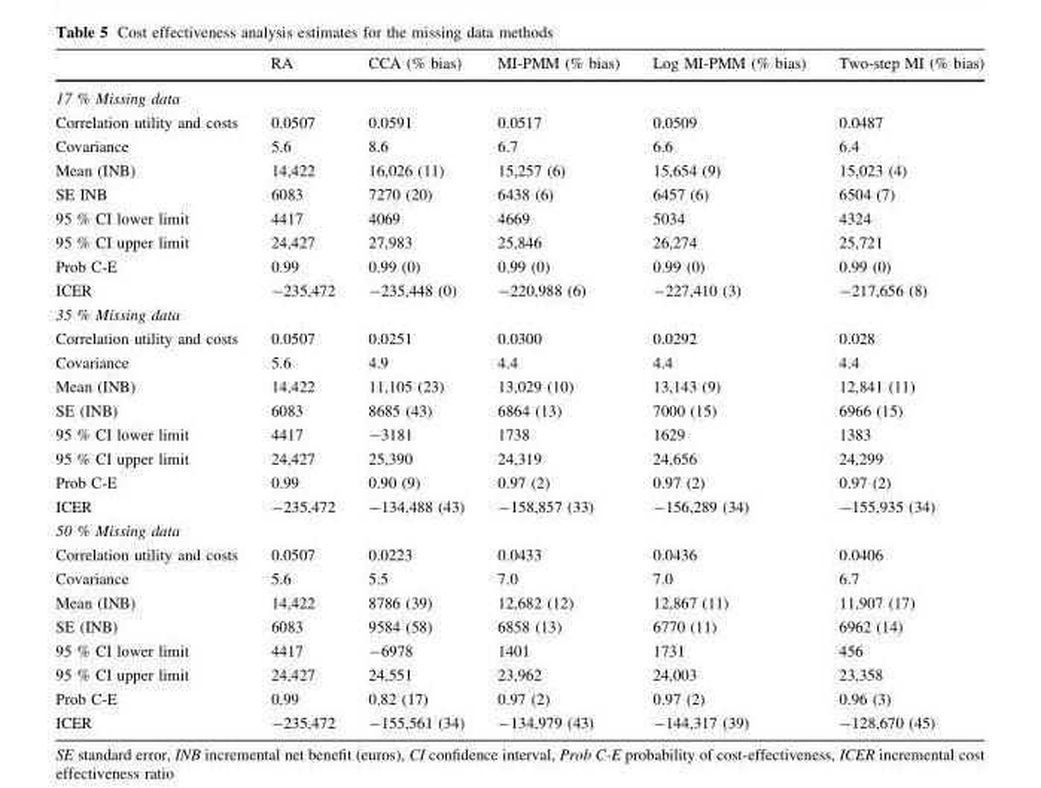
<table><thead><tr><td></td><td>RA</td><td>CCA (% bias)</td><td>MI-PMM (% bias)</td><td>Log MI-PMM (% bias)</td><td>Two-step MI (% bias)</td></tr></thead><tbody><tr><td colspan="6">17 % Missing data</td></tr><tr><td>Correlation utility and costs</td><td>0.0507</td><td>0.0591</td><td>0.0517</td><td>0.0509</td><td>0.0487</td></tr><tr><td>Covariance</td><td>5.6</td><td>8.6</td><td>6.7</td><td>6.6</td><td>6.4</td></tr><tr><td>Mean (INB)</td><td>14,422</td><td>16,026 (11)</td><td>15,257 (6)</td><td>15,654 (9)</td><td>15,023 (4)</td></tr><tr><td>SE INB</td><td>6083</td><td>7270 (20)</td><td>6438 (6)</td><td>6457 (6)</td><td>6504 (7)</td></tr><tr><td>95 % CI lower limit</td><td>4417</td><td>4069</td><td>4669</td><td>5034</td><td>4324</td></tr><tr><td>95 % CI upper limit</td><td>24,427</td><td>27,983</td><td>25,846</td><td>26,274</td><td>25,721</td></tr><tr><td>Prob C-E</td><td>0.99</td><td>0.99 (0)</td><td>0.99 (0)</td><td>0.99 (0)</td><td>0.99 (0)</td></tr><tr><td>ICER</td><td>-235,472</td><td>-235,448 (0)</td><td>-220,988 (6)</td><td>-227,410 (3)</td><td>-217,656 (8)</td></tr><tr><td colspan="6">35 % Missing data</td></tr><tr><td>Correlation utility and costs</td><td>0.0507</td><td>0.0251</td><td>0.0300</td><td>0.0292</td><td>0.028</td></tr><tr><td>Covariance</td><td>5.6</td><td>4.9</td><td>4.4</td><td>4.4</td><td>4.4</td></tr><tr><td>Mean (INB)</td><td>14,422</td><td>11,105 (23)</td><td>13,029 (10)</td><td>13,143 (9)</td><td>12,841 (11)</td></tr><tr><td>SE (INB)</td><td>6083</td><td>8685 (43)</td><td>6864 (13)</td><td>7000 (15)</td><td>6966 (15)</td></tr><tr><td>95 % CI lower limit</td><td>4417</td><td>-3181</td><td>1738</td><td>1629</td><td>1383</td></tr><tr><td>95 % CI upper limit</td><td>24,427</td><td>25,390</td><td>24,319</td><td>24,656</td><td>24,299</td></tr><tr><td>Prob C-E</td><td>0.99</td><td>0.90 (9)</td><td>0.97 (2)</td><td>0.97 (2)</td><td>0.97 (2)</td></tr><tr><td>ICER</td><td>-235,472</td><td>-134,488 (43)</td><td>-158,857 (33)</td><td>-156,289 (34)</td><td>-155,935 (34)</td></tr><tr><td colspan="6">50 % Missing data</td></tr><tr><td>Correlation utility and costs</td><td>0.0507</td><td>0.0223</td><td>0.0433</td><td>0.0436</td><td>0.0406</td></tr><tr><td>Covariance</td><td>5.6</td><td>5.5</td><td>7.0</td><td>7.0</td><td>6.7</td></tr><tr><td>Mean (INB)</td><td>14,422</td><td>8786 (39)</td><td>12,682 (12)</td><td>12,867 (11)</td><td>11,907 (17)</td></tr><tr><td>SE (INB)</td><td>6083</td><td>9584 (58)</td><td>6858 (13)</td><td>6770 (11)</td><td>6962 (14)</td></tr><tr><td>95 % CI lower limit</td><td>4417</td><td>-6978</td><td>1401</td><td>1731</td><td>456</td></tr><tr><td>95 % CI upper limit</td><td>24,427</td><td>24,551</td><td>23,962</td><td>24,003</td><td>23,358</td></tr><tr><td>Prob C-E</td><td>0.99</td><td>0.82 (17)</td><td>0.97 (2)</td><td>0.97 (2)</td><td>0.96 (3)</td></tr><tr><td>ICER</td><td>-235,472</td><td>-155,561 (34)</td><td>-134,979 (43)</td><td>-144,317 (39)</td><td>-128,670 (45)</td></tr></tbody></table>